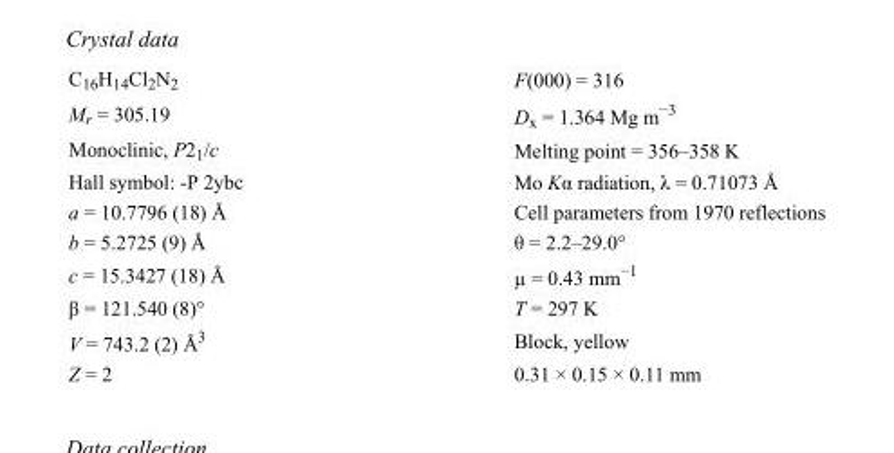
<table><tbody><tr><td>C<sub>16</sub>H<sub>14</sub>Cl<sub>2</sub>N<sub>2</sub></td><td>F(000) = 316</td></tr><tr><td>M<sub>r</sub> = 305.19</td><td>D<sub>x</sub> = 1.364 Mg m<sup>−3</sup></td></tr><tr><td>Monoclinic, P2<sub>1</sub>/c</td><td>Melting point = 356–358 K</td></tr><tr><td>Hall symbol: -P 2ybc</td><td>Mo Kα radiation, λ = 0.71073 Å</td></tr><tr><td>a = 10.7796 (18) Å</td><td>Cell parameters from 1970 reflections</td></tr><tr><td>b = 5.2725 (9) Å</td><td>θ = 2.2–29.0°</td></tr><tr><td>c = 15.3427 (18) Å</td><td>µ = 0.43 mm<sup>−1</sup></td></tr><tr><td>β = 121.540 (8)°</td><td>T = 297 K</td></tr><tr><td>V = 743.2 (2) Å<sup>3</sup></td><td>Block, yellow</td></tr><tr><td>Z = 2</td><td>0.31 × 0.15 × 0.11 mm</td></tr></tbody></table>